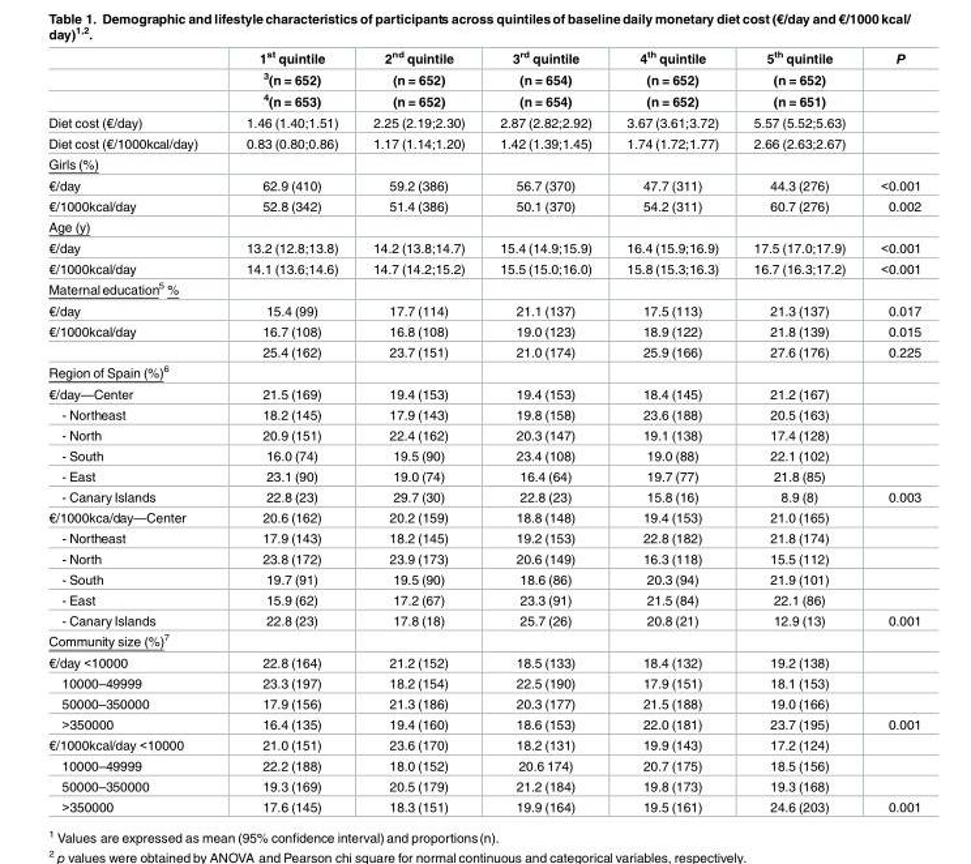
<table><thead><tr><td rowspan="3"></td><td rowspan="3">1<sup>st</sup> quintile <sup>3</sup>(n = 652) <sup>4</sup>(n = 653)</td><td rowspan="3">2<sup>nd</sup> quintile (n = 652) (n = 652)</td><td rowspan="3">3<sup>rd</sup> quintile (n = 654) (n = 654)</td><td rowspan="3">4<sup>th</sup> quintile (n = 652) (n = 652)</td><td rowspan="3">5<sup>th</sup> quintile (n = 652) (n = 651)</td><td rowspan="3">P</td></tr><tr></tr><tr></tr></thead><tbody><tr><td>Diet cost (€/day)</td><td>1.46 (1.40;1.51)</td><td>2.25 (2.19;2.30)</td><td>2.87 (2.82;2.92)</td><td>3.67 (3.61;3.72)</td><td>5.57 (5.52;5.63)</td><td></td></tr><tr><td>Diet cost (€/1000kcal/day)</td><td>0.83 (0.80;0.86)</td><td>1.17 (1.14;1.20)</td><td>1.42 (1.39;1.45)</td><td>1.74 (1.72;1.77)</td><td>2.66 (2.63;2.67)</td><td></td></tr><tr><td colspan="7">Girls (%)</td></tr><tr><td>€/day</td><td>62.9 (410)</td><td>59.2 (386)</td><td>56.7 (370)</td><td>47.7 (311)</td><td>44.3 (276)</td><td>&lt;0.001</td></tr><tr><td>€/1000kcal/day</td><td>52.8 (342)</td><td>51.4 (386)</td><td>50.1 (370)</td><td>54.2 (311)</td><td>60.7 (276)</td><td>0.002</td></tr><tr><td colspan="7">Age (y)</td></tr><tr><td>€/day</td><td>13.2 (12.8;13.8)</td><td>14.2 (13.8;14.7)</td><td>15.4 (14.9;15.9)</td><td>16.4 (15.9;16.9)</td><td>17.5 (17.0;17.9)</td><td>&lt;0.001</td></tr><tr><td>€/1000kcal/day</td><td>14.1 (13.6;14.6)</td><td>14.7 (14.2;15.2)</td><td>15.5 (15.0;16.0)</td><td>15.8 (15.3;16.3)</td><td>16.7 (16.3;17.2)</td><td>&lt;0.001</td></tr><tr><td colspan="7">Maternaleducation<sup>5</sup> %</td></tr><tr><td>€/day</td><td>15.4 (99)</td><td>17.7 (114)</td><td>21.1 (137)</td><td>17.5 (113)</td><td>21.3 (137)</td><td>0.017</td></tr><tr><td rowspan="2">€/1000kcal/day</td><td>16.7 (108)</td><td>16.8 (108)</td><td>19.0 (123)</td><td>18.9 (122)</td><td>21.8 (139)</td><td>0.015</td></tr><tr><td>25.4 (162)</td><td>23.7 (151)</td><td>21.0 (174)</td><td>25.9 (166)</td><td>27.6 (176)</td><td>0.225</td></tr><tr><td colspan="7">Region of Spain (%)<sup>6</sup></td></tr><tr><td>€/day—Center</td><td>21.5 (169)</td><td>19.4 (153)</td><td>19.4 (153)</td><td>18.4 (145)</td><td>21.2 (167)</td><td></td></tr><tr><td>- Northeast</td><td>18.2 (145)</td><td>17.9 (143)</td><td>19.8 (158)</td><td>23.6 (188)</td><td>20.5 (163)</td><td></td></tr><tr><td>- North</td><td>20.9 (151)</td><td>22.4 (162)</td><td>20.3 (147)</td><td>19.1 (138)</td><td>17.4 (128)</td><td></td></tr><tr><td>- South</td><td>16.0 (74)</td><td>19.5 (90)</td><td>23.4 (108)</td><td>19.0 (88)</td><td>22.1 (102)</td><td></td></tr><tr><td>- East</td><td>23.1 (90)</td><td>19.0 (74)</td><td>16.4 (64)</td><td>19.7 (77)</td><td>21.8 (85)</td><td></td></tr><tr><td>- Canary Islands</td><td>22.8 (23)</td><td>29.7 (30)</td><td>22.8 (23)</td><td>15.8 (16)</td><td>8.9 (8)</td><td>0.003</td></tr><tr><td>€/1000kca/day—Center</td><td>20.6 (162)</td><td>20.2 (159)</td><td>18.8 (148)</td><td>19.4 (153)</td><td>21.0 (165)</td><td></td></tr><tr><td>- Northeast</td><td>17.9 (143)</td><td>18.2 (145)</td><td>19.2 (153)</td><td>22.8 (182)</td><td>21.8 (174)</td><td></td></tr><tr><td>- North</td><td>23.8 (172)</td><td>23.9 (173)</td><td>20.6 (149)</td><td>16.3 (118)</td><td>15.5 (112)</td><td></td></tr><tr><td>- South</td><td>19.7 (91)</td><td>19.5 (90)</td><td>18.6 (86)</td><td>20.3 (94)</td><td>21.9 (101)</td><td></td></tr><tr><td>- East</td><td>15.9 (62)</td><td>17.2 (67)</td><td>23.3 (91)</td><td>21.5 (84)</td><td>22.1 (86)</td><td></td></tr><tr><td>- Canary Islands</td><td>22.8 (23)</td><td>17.8 (18)</td><td>25.7 (26)</td><td>20.8 (21)</td><td>12.9 (13)</td><td>0.001</td></tr><tr><td colspan="7">Community size (%)<sup>7</sup></td></tr><tr><td>€/day &lt;10000</td><td>22.8 (164)</td><td>21.2 (152)</td><td>18.5 (133)</td><td>18.4 (132)</td><td>19.2 (138)</td><td></td></tr><tr><td>10000–49999</td><td>23.3 (197)</td><td>18.2 (154)</td><td>22.5 (190)</td><td>17.9 (151)</td><td>18.1 (153)</td><td></td></tr><tr><td>50000–350000</td><td>17.9 (156)</td><td>21.3 (186)</td><td>20.3 (177)</td><td>21.5 (188)</td><td>19.0 (166)</td><td></td></tr><tr><td>&gt;350000</td><td>16.4 (135)</td><td>19.4 (160)</td><td>18.6 (153)</td><td>22.0 (181)</td><td>23.7 (195)</td><td>0.001</td></tr><tr><td>€/1000kcal/day &lt;10000</td><td>21.0 (151)</td><td>23.6 (170)</td><td>18.2 (131)</td><td>19.9 (143)</td><td>17.2 (124)</td><td></td></tr><tr><td>10000–49999</td><td>22.2 (188)</td><td>18.0 (152)</td><td>20.6 174)</td><td>20.7 (175)</td><td>18.5 (156)</td><td></td></tr><tr><td>50000–350000</td><td>19.3 (169)</td><td>20.5 (179)</td><td>21.2 (184)</td><td>19.8 (173)</td><td>19.3 (168)</td><td></td></tr><tr><td>&gt;350000</td><td>17.6 (145)</td><td>18.3 (151)</td><td>19.9 (164)</td><td>19.5 (161)</td><td>24.6 (203)</td><td>0.001</td></tr></tbody></table>